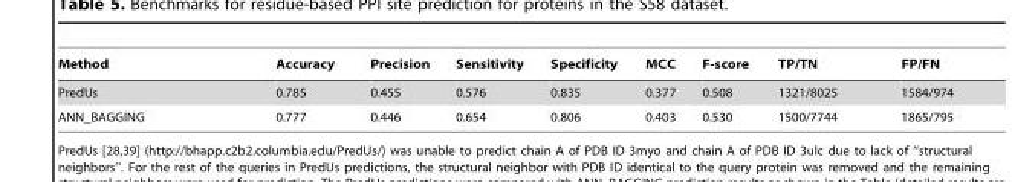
<table><thead><tr><td>Method</td><td>Accuracy</td><td>Precision</td><td>Sensitivity</td><td>Specificity</td><td>MCC</td><td>F-score</td><td>TP/TN</td><td>FP/FN</td></tr></thead><tbody><tr><td>PredUs</td><td>0.785</td><td>0.455</td><td>0.576</td><td>0.835</td><td>0.377</td><td>0.508</td><td>1321/8025</td><td>1584/974</td></tr><tr><td>ANN_BAGGING</td><td>0.777</td><td>0.446</td><td>0.654</td><td>0.806</td><td>0.403</td><td>0.530</td><td>1500/7744</td><td>1865/795</td></tr></tbody></table>